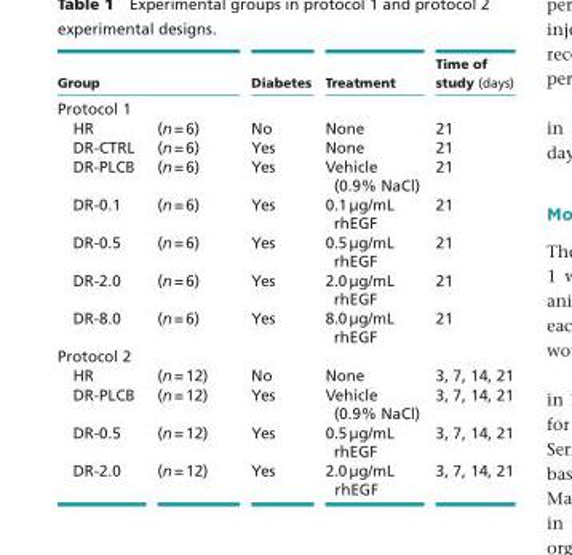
<table><thead><tr><td colspan="2">Group</td><td>Diabetes</td><td>Treatment</td><td>Time of study (days)</td></tr><tr><td colspan="5">Protocol 1</td></tr><tr><td>HR</td><td>(n = 6)</td><td>No</td><td>None</td><td>21</td></tr></thead><tbody><tr><td>DR-CTRL</td><td>(n = 6)</td><td>Yes</td><td>None</td><td>21</td></tr><tr><td>DR-PLCB</td><td>(n = 6)</td><td>Yes</td><td>Vehicle (0.9% NaCl)</td><td>21</td></tr><tr><td>DR-0.1</td><td>(n = 6)</td><td>Yes</td><td>0.1 µg/mL rhEGF</td><td>21</td></tr><tr><td>DR-0.5</td><td>(n = 6)</td><td>Yes</td><td>0.5 µg/mL rhEGF</td><td>21</td></tr><tr><td>DR-2.0</td><td>(n = 6)</td><td>Yes</td><td>2.0 µg/mL rhEGF</td><td>21</td></tr><tr><td>DR-8.0</td><td>(n = 6)</td><td>Yes</td><td>8.0 µg/mL rhEGF</td><td>21</td></tr><tr><td colspan="5">Protocol 2</td></tr><tr><td>HR</td><td>(n = 12)</td><td>No</td><td>None</td><td>3, 7, 14, 21</td></tr><tr><td>DR-PLCB</td><td>(n = 12)</td><td>Yes</td><td>Vehicle (0.9% NaCl)</td><td>3, 7, 14, 21</td></tr><tr><td>DR-0.5</td><td>(n = 12)</td><td>Yes</td><td>0.5 µg/mL rhEGF</td><td>3, 7, 14, 21</td></tr><tr><td>DR-2.0</td><td>(n = 12)</td><td>Yes</td><td>2.0 µg/mL rhEGF</td><td>3, 7, 14, 21</td></tr></tbody></table>